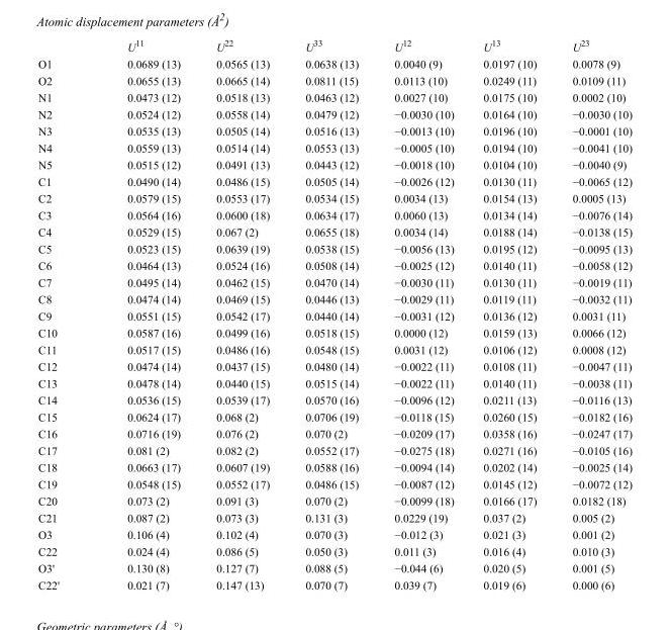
<table><thead><tr><td></td><td>U<sup>11</sup></td><td>U<sup>22</sup></td><td>U<sup>33</sup></td><td>U<sup>12</sup></td><td>U<sup>13</sup></td><td>U<sup>23</sup></td></tr></thead><tbody><tr><td>O1</td><td>0.0689 (13)</td><td>0.0565 (13)</td><td>0.0638 (13)</td><td>0.0040 (9)</td><td>0.0197 (10)</td><td>0.0078 (9)</td></tr><tr><td>O2</td><td>0.0655 (13)</td><td>0.0665 (14)</td><td>0.0811 (15)</td><td>0.0113 (10)</td><td>0.0249 (11)</td><td>0.0109 (11)</td></tr><tr><td>N1</td><td>0.0473 (12)</td><td>0.0518 (13)</td><td>0.0463 (12)</td><td>0.0027 (10)</td><td>0.0175 (10)</td><td>0.0002 (10)</td></tr><tr><td>N2</td><td>0.0524 (12)</td><td>0.0558 (14)</td><td>0.0479 (12)</td><td>−0.0030 (10)</td><td>0.0164 (10)</td><td>−0.0030 (10)</td></tr><tr><td>N3</td><td>0.0535 (13)</td><td>0.0505 (14)</td><td>0.0516 (13)</td><td>−0.0013 (10)</td><td>0.0196 (10)</td><td>−0.0001 (10)</td></tr><tr><td>N4</td><td>0.0559 (13)</td><td>0.0514 (14)</td><td>0.0553 (13)</td><td>−0.0005 (10)</td><td>0.0194 (10)</td><td>−0.0041 (10)</td></tr><tr><td>N5</td><td>0.0515 (12)</td><td>0.0491 (13)</td><td>0.0443 (12)</td><td>−0.0018 (10)</td><td>0.0104 (10)</td><td>−0.0040 (9)</td></tr><tr><td>C1</td><td>0.0490 (14)</td><td>0.0486 (15)</td><td>0.0505 (14)</td><td>−0.0026 (12)</td><td>0.0130 (11)</td><td>−0.0065 (12)</td></tr><tr><td>C2</td><td>0.0579 (15)</td><td>0.0553 (17)</td><td>0.0534 (15)</td><td>0.0034 (13)</td><td>0.0154 (13)</td><td>0.0005 (13)</td></tr><tr><td>C3</td><td>0.0564 (16)</td><td>0.0600 (18)</td><td>0.0634 (17)</td><td>0.0060 (13)</td><td>0.0134 (14)</td><td>−0.0076 (14)</td></tr><tr><td>C4</td><td>0.0529 (15)</td><td>0.067 (2)</td><td>0.0655 (18)</td><td>0.0034 (14)</td><td>0.0188 (14)</td><td>−0.0138 (15)</td></tr><tr><td>C5</td><td>0.0523 (15)</td><td>0.0639 (19)</td><td>0.0538 (15)</td><td>−0.0056 (13)</td><td>0.0195 (12)</td><td>−0.0095 (13)</td></tr><tr><td>C6</td><td>0.0464 (13)</td><td>0.0524 (16)</td><td>0.0508 (14)</td><td>−0.0025 (12)</td><td>0.0140 (11)</td><td>−0.0058 (12)</td></tr><tr><td>C7</td><td>0.0495 (14)</td><td>0.0462 (15)</td><td>0.0470 (14)</td><td>−0.0030 (11)</td><td>0.0130 (11)</td><td>−0.0019 (11)</td></tr><tr><td>C8</td><td>0.0474 (14)</td><td>0.0469 (15)</td><td>0.0446 (13)</td><td>−0.0029 (11)</td><td>0.0119 (11)</td><td>−0.0032 (11)</td></tr><tr><td>C9</td><td>0.0551 (15)</td><td>0.0542 (17)</td><td>0.0440 (14)</td><td>−0.0031 (12)</td><td>0.0136 (12)</td><td>0.0031 (11)</td></tr><tr><td>C10</td><td>0.0587 (16)</td><td>0.0499 (16)</td><td>0.0518 (15)</td><td>0.0000 (12)</td><td>0.0159 (13)</td><td>0.0066 (12)</td></tr><tr><td>C11</td><td>0.0517 (15)</td><td>0.0486 (16)</td><td>0.0548 (15)</td><td>0.0031 (12)</td><td>0.0106 (12)</td><td>0.0008 (12)</td></tr><tr><td>C12</td><td>0.0474 (14)</td><td>0.0437 (15)</td><td>0.0480 (14)</td><td>−0.0022 (11)</td><td>0.0108 (11)</td><td>−0.0047 (11)</td></tr><tr><td>C13</td><td>0.0478 (14)</td><td>0.0440 (15)</td><td>0.0515 (14)</td><td>−0.0022 (11)</td><td>0.0140 (11)</td><td>−0.0038 (11)</td></tr><tr><td>C14</td><td>0.0536 (15)</td><td>0.0539 (17)</td><td>0.0570 (16)</td><td>−0.0096 (12)</td><td>0.0211 (13)</td><td>−0.0116 (13)</td></tr><tr><td>C15</td><td>0.0624 (17)</td><td>0.068 (2)</td><td>0.0706 (19)</td><td>−0.0118 (15)</td><td>0.0260 (15)</td><td>−0.0182 (16)</td></tr><tr><td>C16</td><td>0.0716 (19)</td><td>0.076 (2)</td><td>0.070 (2)</td><td>−0.0209 (17)</td><td>0.0358 (16)</td><td>−0.0247 (17)</td></tr><tr><td>C17</td><td>0.081 (2)</td><td>0.082 (2)</td><td>0.0552 (17)</td><td>−0.0275 (18)</td><td>0.0271 (16)</td><td>−0.0105 (16)</td></tr><tr><td>C18</td><td>0.0663 (17)</td><td>0.0607 (19)</td><td>0.0588 (16)</td><td>−0.0094 (14)</td><td>0.0202 (14)</td><td>−0.0025 (14)</td></tr><tr><td>C19</td><td>0.0548 (15)</td><td>0.0552 (17)</td><td>0.0486 (15)</td><td>−0.0087 (12)</td><td>0.0145 (12)</td><td>−0.0072 (12)</td></tr><tr><td>C20</td><td>0.073 (2)</td><td>0.091 (3)</td><td>0.070 (2)</td><td>−0.0099 (18)</td><td>0.0166 (17)</td><td>0.0182 (18)</td></tr><tr><td>C21</td><td>0.087 (2)</td><td>0.073 (3)</td><td>0.131 (3)</td><td>0.0229 (19)</td><td>0.037 (2)</td><td>0.005 (2)</td></tr><tr><td>O3</td><td>0.106 (4)</td><td>0.102 (4)</td><td>0.070 (3)</td><td>−0.012 (3)</td><td>0.021 (3)</td><td>0.001 (2)</td></tr><tr><td>C22</td><td>0.024 (4)</td><td>0.086 (5)</td><td>0.050 (3)</td><td>0.011 (3)</td><td>0.016 (4)</td><td>0.010 (3)</td></tr><tr><td>O3&#x27;</td><td>0.130 (8)</td><td>0.127 (7)</td><td>0.088 (5)</td><td>−0.044 (6)</td><td>0.020 (5)</td><td>0.001 (5)</td></tr><tr><td>C22&#x27;</td><td>0.021 (7)</td><td>0.147 (13)</td><td>0.070 (7)</td><td>0.039 (7)</td><td>0.019 (6)</td><td>0.000 (6)</td></tr></tbody></table>